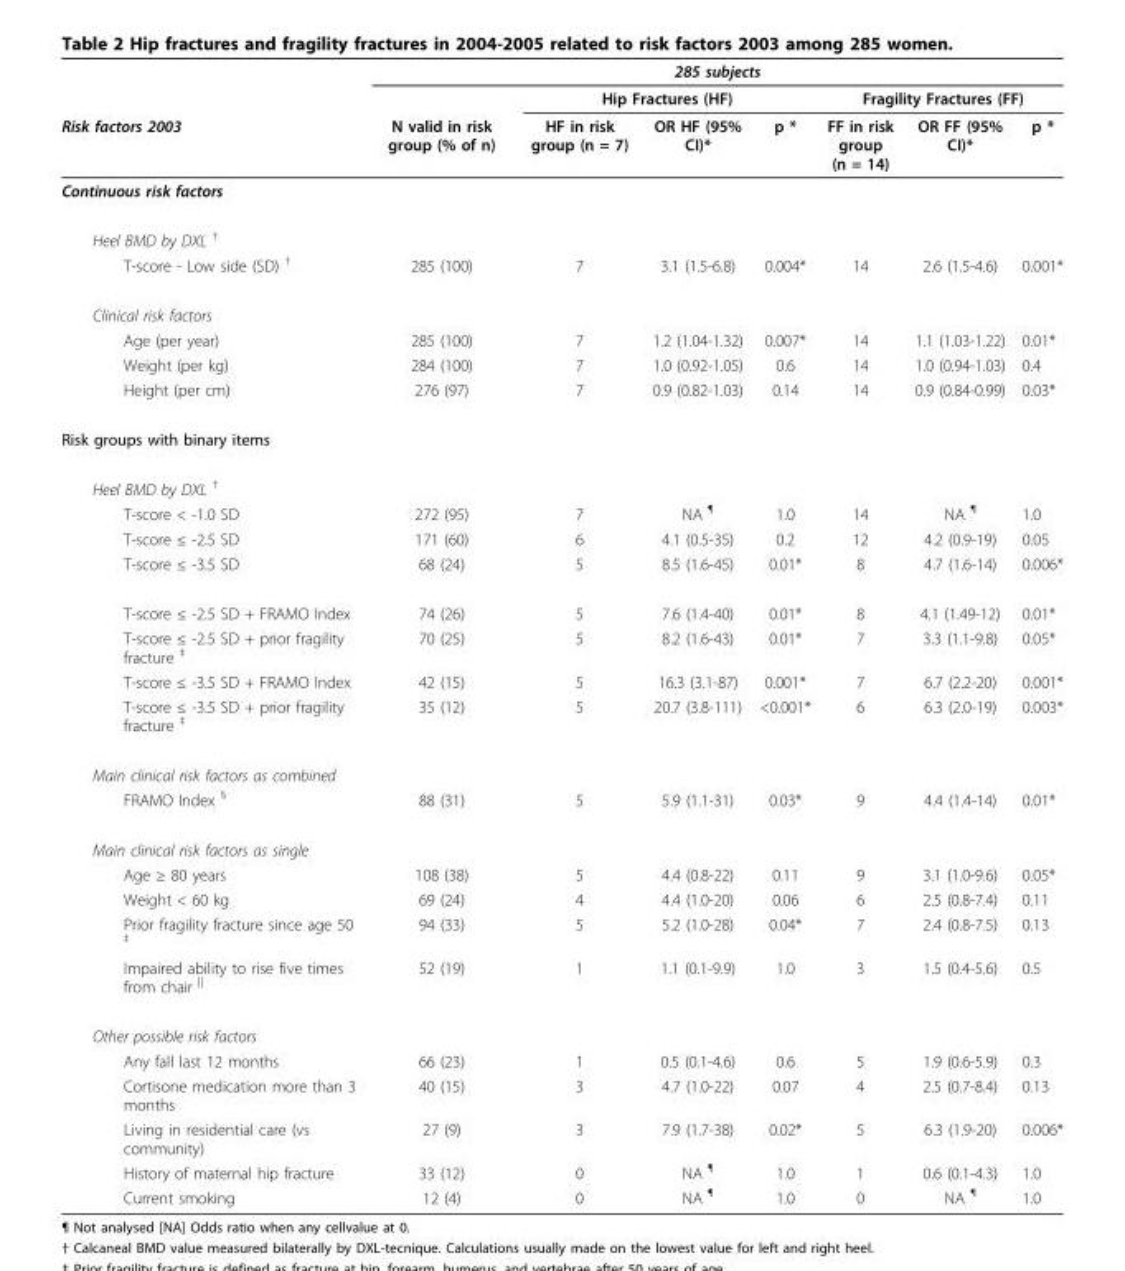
<table><thead><tr><td rowspan="3">Risk factors 2003</td><td colspan="7">285 subjects</td></tr><tr><td rowspan="2">N valid in risk group (% of n)</td><td colspan="3">Hip Fractures (HF)</td><td colspan="3">Fragility Fractures (FF)</td></tr><tr><td>HF in risk group (n = 7)</td><td>OR HF (95% CI)*</td><td>p *</td><td>FF in risk group (n = 14)</td><td>OR FF (95% CI)*</td><td>p *</td></tr></thead><tbody><tr><td colspan="8">Continuous risk factors</td></tr><tr><td colspan="8">Heel BMD by DXL <sup>†</sup></td></tr><tr><td>T-score - Low side (SD) <sup>†</sup></td><td>285 (100)</td><td>7</td><td>3.1 (1.5-6.8)</td><td>0.004*</td><td>14</td><td>2.6 (1.5-4.6)</td><td>0.001*</td></tr><tr><td colspan="8">Clinical risk factors</td></tr><tr><td>Age (per year)</td><td>285 (100)</td><td>7</td><td>1.2 (1.04-1.32)</td><td>0.007*</td><td>14</td><td>1.1 (1.03-1.22)</td><td>0.01*</td></tr><tr><td>Weight (per kg)</td><td>284 (100)</td><td>7</td><td>1.0 (0.92-1.05)</td><td>0.6</td><td>14</td><td>1.0 (0.94-1.03)</td><td>0.4</td></tr><tr><td>Height (per cm)</td><td>276 (97)</td><td>7</td><td>0.9 (0.82-1.03)</td><td>0.14</td><td>14</td><td>0.9 (0.84-0.99)</td><td>0.03*</td></tr><tr><td colspan="8">Risk groups with binary items</td></tr><tr><td colspan="8">Heel BMD by DXL <sup>†</sup></td></tr><tr><td>T-score &lt; -1.0 SD</td><td>272 (95)</td><td>7</td><td>NA <sup>¶</sup></td><td>1.0</td><td>14</td><td>NA <sup>¶</sup></td><td>1.0</td></tr><tr><td>T-score ≤ -2.5 SD</td><td>171 (60)</td><td>6</td><td>4.1 (0.5-35)</td><td>0.2</td><td>12</td><td>4.2 (0.9-19)</td><td>0.05</td></tr><tr><td>T-score ≤ -3.5 SD</td><td>68 (24)</td><td>5</td><td>8.5 (1.6-45)</td><td>0.01*</td><td>8</td><td>4.7 (1.6-14)</td><td>0.006*</td></tr><tr><td>T-score ≤ -2.5 SD + FRAMO Index</td><td>74 (26)</td><td>5</td><td>7.6 (1.4-40)</td><td>0.01*</td><td>8</td><td>4.1 (1.49-12)</td><td>0.01*</td></tr><tr><td>T-score ≤ -2.5 SD + prior fragility fracture <sup>‡</sup></td><td>70 (25)</td><td>5</td><td>8.2 (1.6-43)</td><td>0.01*</td><td>7</td><td>3.3 (1.1-9.8)</td><td>0.05*</td></tr><tr><td>T-score ≤ -3.5 SD + FRAMO Index</td><td>42 (15)</td><td>5</td><td>16.3 (3.1-87)</td><td>0.001*</td><td>7</td><td>6.7 (2.2-20)</td><td>0.001*</td></tr><tr><td>T-score ≤ -3.5 SD + prior fragility fracture <sup>‡</sup></td><td>35 (12)</td><td>5</td><td>20.7 (3.8-111)</td><td>&lt;0.001*</td><td>6</td><td>6.3 (2.0-19)</td><td>0.003*</td></tr><tr><td colspan="8">Main clinical risk factors as combined</td></tr><tr><td>FRAMO Index <sup>§</sup></td><td>88 (31)</td><td>5</td><td>5.9 (1.1-31)</td><td>0.03*</td><td>9</td><td>4.4 (1.4-14)</td><td>0.01*</td></tr><tr><td colspan="8">Main clinical risk factors as single</td></tr><tr><td>Age ≥ 80 years</td><td>108 (38)</td><td>5</td><td>4.4 (0.8-22)</td><td>0.11</td><td>9</td><td>3.1 (1.0-9.6)</td><td>0.05*</td></tr><tr><td>Weight &lt; 60 kg</td><td>69 (24)</td><td>4</td><td>4.4 (1.0-20)</td><td>0.06</td><td>6</td><td>2.5 (0.8-7.4)</td><td>0.11</td></tr><tr><td>Prior fragility fracture since age 50 <sup>‡</sup></td><td>94 (33)</td><td>5</td><td>5.2 (1.0-28)</td><td>0.04*</td><td>7</td><td>2.4 (0.8-7.5)</td><td>0.13</td></tr><tr><td>Impaired ability to rise five times from chair <sup>||</sup></td><td>52 (19)</td><td>1</td><td>1.1 (0.1-9.9)</td><td>1.0</td><td>3</td><td>1.5 (0.4-5.6)</td><td>0.5</td></tr><tr><td colspan="8">Other possible risk factors</td></tr><tr><td>Any fall last 12 months</td><td>66 (23)</td><td>1</td><td>0.5 (0.1-4.6)</td><td>0.6</td><td>5</td><td>1.9 (0.6-5.9)</td><td>0.3</td></tr><tr><td>Cortisone medication more than 3 months</td><td>40 (15)</td><td>3</td><td>4.7 (1.0-22)</td><td>0.07</td><td>4</td><td>2.5 (0.7-8.4)</td><td>0.13</td></tr><tr><td>Living in residential care (vs community)</td><td>27 (9)</td><td>3</td><td>7.9 (1.7-38)</td><td>0.02*</td><td>5</td><td>6.3 (1.9-20)</td><td>0.006*</td></tr><tr><td>History of maternal hip fracture</td><td>33 (12)</td><td>0</td><td>NA <sup>¶</sup></td><td>1.0</td><td>1</td><td>0.6 (0.1-4.3)</td><td>1.0</td></tr><tr><td>Current smoking</td><td>12 (4)</td><td>0</td><td>NA <sup>¶</sup></td><td>1.0</td><td>0</td><td>NA <sup>¶</sup></td><td>1.0</td></tr></tbody></table>